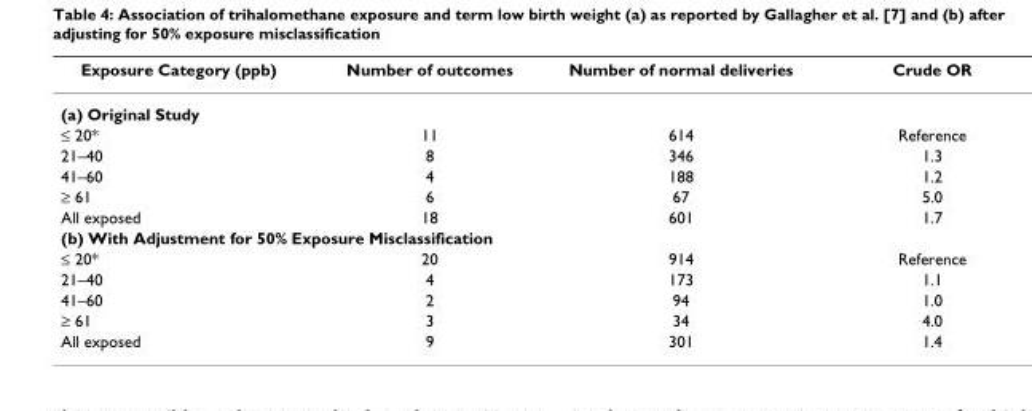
<table><thead><tr><td>Exposure Category (ppb)</td><td>Number of outcomes</td><td>Number of normal deliveries</td><td>Crude OR</td></tr></thead><tbody><tr><td colspan="4">(a) Original Study</td></tr><tr><td>≤ 20*</td><td>11</td><td>614</td><td>Reference</td></tr><tr><td>21–40</td><td>8</td><td>346</td><td>1.3</td></tr><tr><td>41–60</td><td>4</td><td>188</td><td>1.2</td></tr><tr><td>≥ 61</td><td>6</td><td>67</td><td>5.0</td></tr><tr><td>All exposed</td><td>18</td><td>601</td><td>1.7</td></tr><tr><td colspan="4">(b) With Adjustment for 50% Exposure Misclassification</td></tr><tr><td>≤ 20*</td><td>20</td><td>914</td><td>Reference</td></tr><tr><td>21–40</td><td>4</td><td>173</td><td>1.1</td></tr><tr><td>41–60</td><td>2</td><td>94</td><td>1.0</td></tr><tr><td>≥ 61</td><td>3</td><td>34</td><td>4.0</td></tr><tr><td>All exposed</td><td>9</td><td>301</td><td>1.4</td></tr></tbody></table>